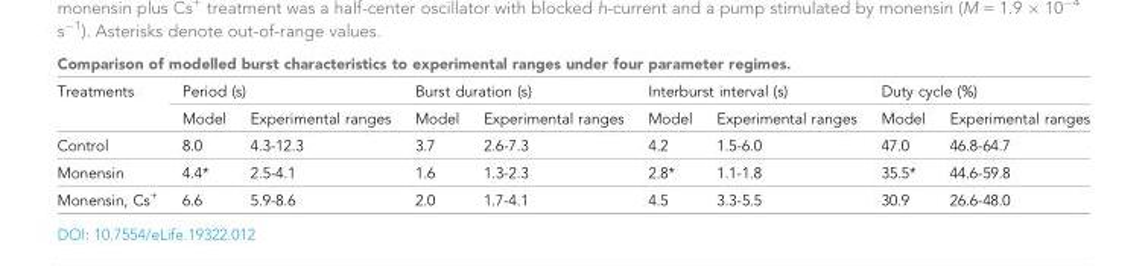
<table><thead><tr><td colspan="9">Comparison of modelled burst characteristics to experimental ranges under four parameter regimes.</td></tr><tr><td rowspan="2">Treatments</td><td colspan="2">Period (s)</td><td colspan="2">Burst duration (s)</td><td colspan="2">Interburst interval (s)</td><td colspan="2">Duty cycle (%)</td></tr><tr><td>Model</td><td>Experimental ranges</td><td>Model</td><td>Experimental ranges</td><td>Model</td><td>Experimental ranges</td><td>Model</td><td>Experimental ranges</td></tr></thead><tbody><tr><td>Control</td><td>8.0</td><td>4.3-12.3</td><td>3.7</td><td>2.6-7.3</td><td>4.2</td><td>1.5-6.0</td><td>47.0</td><td>46.8-64.7</td></tr><tr><td>Monensin</td><td>4.4*</td><td>2.5-4.1</td><td>1.6</td><td>1.3-2.3</td><td>2.8*</td><td>1.1-1.8</td><td>35.5*</td><td>44.6-59.8</td></tr><tr><td>Monensin, Cs<sup>+</sup></td><td>6.6</td><td>5.9-8.6</td><td>2.0</td><td>1.7-4.1</td><td>4.5</td><td>3.3-5.5</td><td>30.9</td><td>26.6-48.0</td></tr></tbody></table>